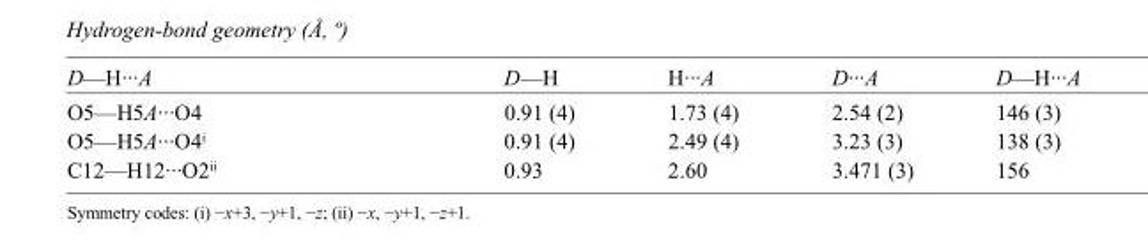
<table><tbody><tr><td>D—H···A</td><td>D—H</td><td>H···A</td><td>D···A</td><td>D—H···A</td></tr><tr><td>O5—H5A···O4</td><td>0.91 (4)</td><td>1.73 (4)</td><td>2.54 (2)</td><td>146 (3)</td></tr><tr><td>O5—H5A···O4<sup>i</sup></td><td>0.91 (4)</td><td>2.49 (4)</td><td>3.23 (3)</td><td>138 (3)</td></tr><tr><td>C12—H12···O2<sup>ii</sup></td><td>0.93</td><td>2.60</td><td>3.471 (3)</td><td>156</td></tr></tbody></table>